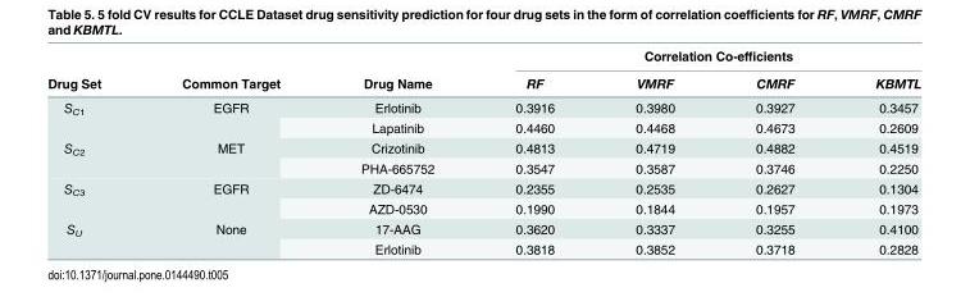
<table><thead><tr><td rowspan="2">Drug Set</td><td rowspan="2">Common Target</td><td rowspan="2">Drug Name</td><td colspan="4">Correlation Co-efficients</td></tr><tr><td>RF</td><td>VMRF</td><td>CMRF</td><td>KBMTL</td></tr></thead><tbody><tr><td rowspan="2">S<sub>C1</sub></td><td rowspan="2">EGFR</td><td>Erlotinib</td><td>0.3916</td><td>0.3980</td><td>0.3927</td><td>0.3457</td></tr><tr><td>Lapatinib</td><td>0.4460</td><td>0.4468</td><td>0.4673</td><td>0.2609</td></tr><tr><td rowspan="2">S<sub>C2</sub></td><td rowspan="2">MET</td><td>Crizotinib</td><td>0.4813</td><td>0.4719</td><td>0.4882</td><td>0.4519</td></tr><tr><td>PHA-665752</td><td>0.3547</td><td>0.3587</td><td>0.3746</td><td>0.2250</td></tr><tr><td rowspan="2">S<sub>C3</sub></td><td rowspan="2">EGFR</td><td>ZD-6474</td><td>0.2355</td><td>0.2535</td><td>0.2627</td><td>0.1304</td></tr><tr><td>AZD-0530</td><td>0.1990</td><td>0.1844</td><td>0.1957</td><td>0.1973</td></tr><tr><td rowspan="2">S<sub>U</sub></td><td rowspan="2">None</td><td>17-AAG</td><td>0.3620</td><td>0.3337</td><td>0.3255</td><td>0.4100</td></tr><tr><td>Erlotinib</td><td>0.3818</td><td>0.3852</td><td>0.3718</td><td>0.2828</td></tr></tbody></table>